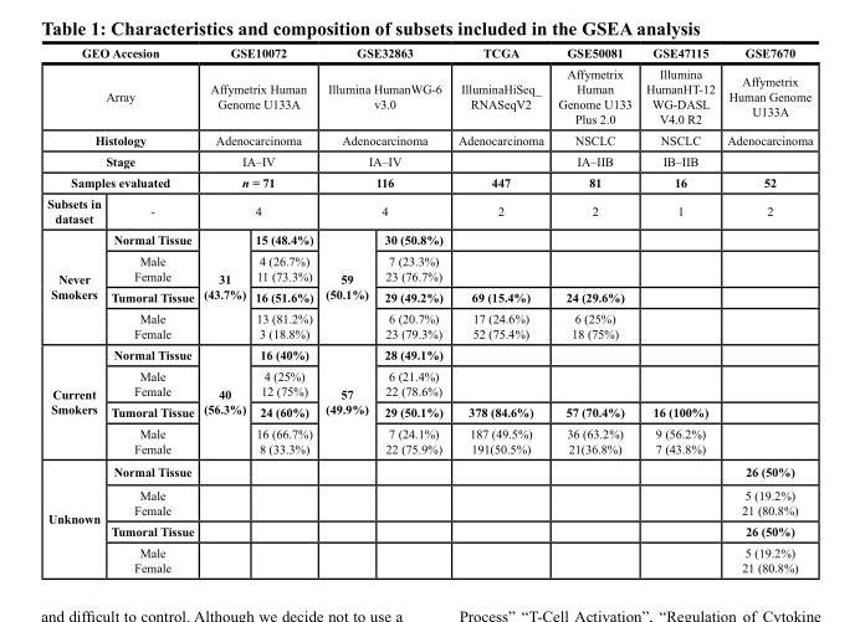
<table><thead><tr><td colspan="2">GEO Accesion</td><td colspan="2">GSE10072</td><td colspan="2">GSE32863</td><td>TCGA</td><td>GSE50081</td><td>GSE47115</td><td>GSE7670</td></tr></thead><tbody><tr><td colspan="2">Array</td><td colspan="2">Affymetrix Human Genome U133A</td><td colspan="2">Illumina HumanWG-6 v3.0</td><td>IlluminaHiSeq_ RNASeqV2</td><td>Affymetrix Human Genome U133 Plus 2.0</td><td>Illumina HumanHT-12 WG-DASL V4.0 R2</td><td>Affymetrix Human Genome U133A</td></tr><tr><td colspan="2">Histology</td><td colspan="2">Adenocarcinoma</td><td colspan="2">Adenocarcinoma</td><td>Adenocarcinoma</td><td>NSCLC</td><td>NSCLC</td><td>Adenocarcinoma</td></tr><tr><td colspan="2">Stage</td><td colspan="2">IA–IV</td><td colspan="2">IA–IV</td><td></td><td>IA–IIB</td><td>IB–IIB</td><td></td></tr><tr><td colspan="2">Samples evaluated</td><td colspan="2">n = 71</td><td colspan="2">116</td><td>447</td><td>81</td><td>16</td><td>52</td></tr><tr><td>Subsets in dataset</td><td>-</td><td colspan="2">4</td><td colspan="2">4</td><td>2</td><td>2</td><td>1</td><td>2</td></tr><tr><td rowspan="4">Never Smokers</td><td>Normal Tissue</td><td rowspan="4">31 (43.7%)</td><td>15 (48.4%)</td><td rowspan="4">59 (50.1%)</td><td>30 (50.8%)</td><td></td><td></td><td></td><td></td></tr><tr><td>Male Female</td><td>4 (26.7%) 11 (73.3%)</td><td>7 (23.3%) 23 (76.7%)</td><td></td><td></td><td></td><td></td></tr><tr><td>Tumoral Tissue</td><td>16 (51.6%)</td><td>29 (49.2%)</td><td>69 (15.4%)</td><td>24 (29.6%)</td><td></td><td></td></tr><tr><td>Male Female</td><td>13 (81.2%) 3 (18.8%)</td><td>6 (20.7%) 23 (79.3%)</td><td>17 (24.6%) 52 (75.4%)</td><td>6 (25%) 18 (75%)</td><td></td><td></td></tr><tr><td rowspan="4">Current Smokers</td><td>Normal Tissue</td><td rowspan="4">40 (56.3%)</td><td>16 (40%)</td><td rowspan="4">57 (49.9%)</td><td>28 (49.1%)</td><td></td><td></td><td></td><td></td></tr><tr><td>Male Female</td><td>4 (25%) 12 (75%)</td><td>6 (21.4%) 22 (78.6%)</td><td></td><td></td><td></td><td></td></tr><tr><td>Tumoral Tissue</td><td>24 (60%)</td><td>29 (50.1%)</td><td>378 (84.6%)</td><td>57 (70.4%)</td><td>16 (100%)</td><td></td></tr><tr><td>Male Female</td><td>16 (66.7%) 8 (33.3%)</td><td>7 (24.1%) 22 (75.9%)</td><td>187 (49.5%) 191(50.5%)</td><td>36 (63.2%) 21(36.8%)</td><td>9 (56.2%) 7 (43.8%)</td><td></td></tr><tr><td rowspan="4">Unknown</td><td>Normal Tissue</td><td></td><td></td><td></td><td></td><td></td><td></td><td></td><td>26 (50%)</td></tr><tr><td>Male Female</td><td></td><td></td><td></td><td></td><td></td><td></td><td></td><td>5 (19.2%) 21 (80.8%)</td></tr><tr><td>Tumoral Tissue</td><td></td><td></td><td></td><td></td><td></td><td></td><td></td><td>26 (50%)</td></tr><tr><td>Male Female</td><td></td><td></td><td></td><td></td><td></td><td></td><td></td><td>5 (19.2%) 21 (80.8%)</td></tr></tbody></table>